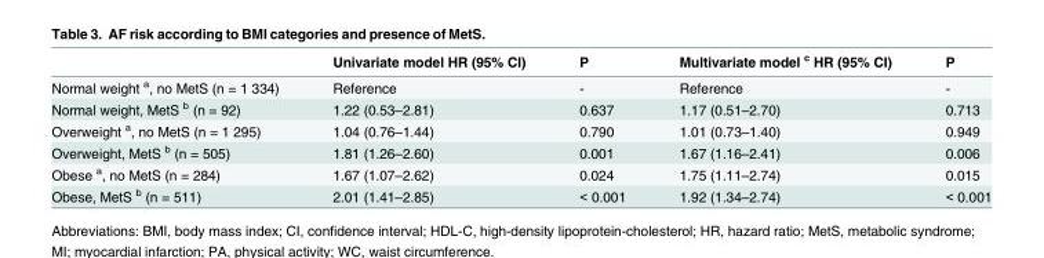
<table><thead><tr><td></td><td>Univariate model HR (95% CI)</td><td>P</td><td>Multivariate model <sup>c</sup> HR (95% CI)</td><td>P</td></tr></thead><tbody><tr><td>Normal weight <sup>a</sup>, no MetS (n = 1 334)</td><td>Reference</td><td>-</td><td>Reference</td><td>-</td></tr><tr><td>Normal weight, MetS <sup>b</sup> (n = 92)</td><td>1.22 (0.53–2.81)</td><td>0.637</td><td>1.17 (0.51–2.70)</td><td>0.713</td></tr><tr><td>Overweight <sup>a</sup>, no MetS (n = 1 295)</td><td>1.04 (0.76–1.44)</td><td>0.790</td><td>1.01 (0.73–1.40)</td><td>0.949</td></tr><tr><td>Overweight, MetS <sup>b</sup> (n = 505)</td><td>1.81 (1.26–2.60)</td><td>0.001</td><td>1.67 (1.16–2.41)</td><td>0.006</td></tr><tr><td>Obese <sup>a</sup>, no MetS (n = 284)</td><td>1.67 (1.07–2.62)</td><td>0.024</td><td>1.75 (1.11–2.74)</td><td>0.015</td></tr><tr><td>Obese, MetS <sup>b</sup> (n = 511)</td><td>2.01 (1.41–2.85)</td><td>&lt; 0.001</td><td>1.92 (1.34–2.74)</td><td>&lt; 0.001</td></tr></tbody></table>